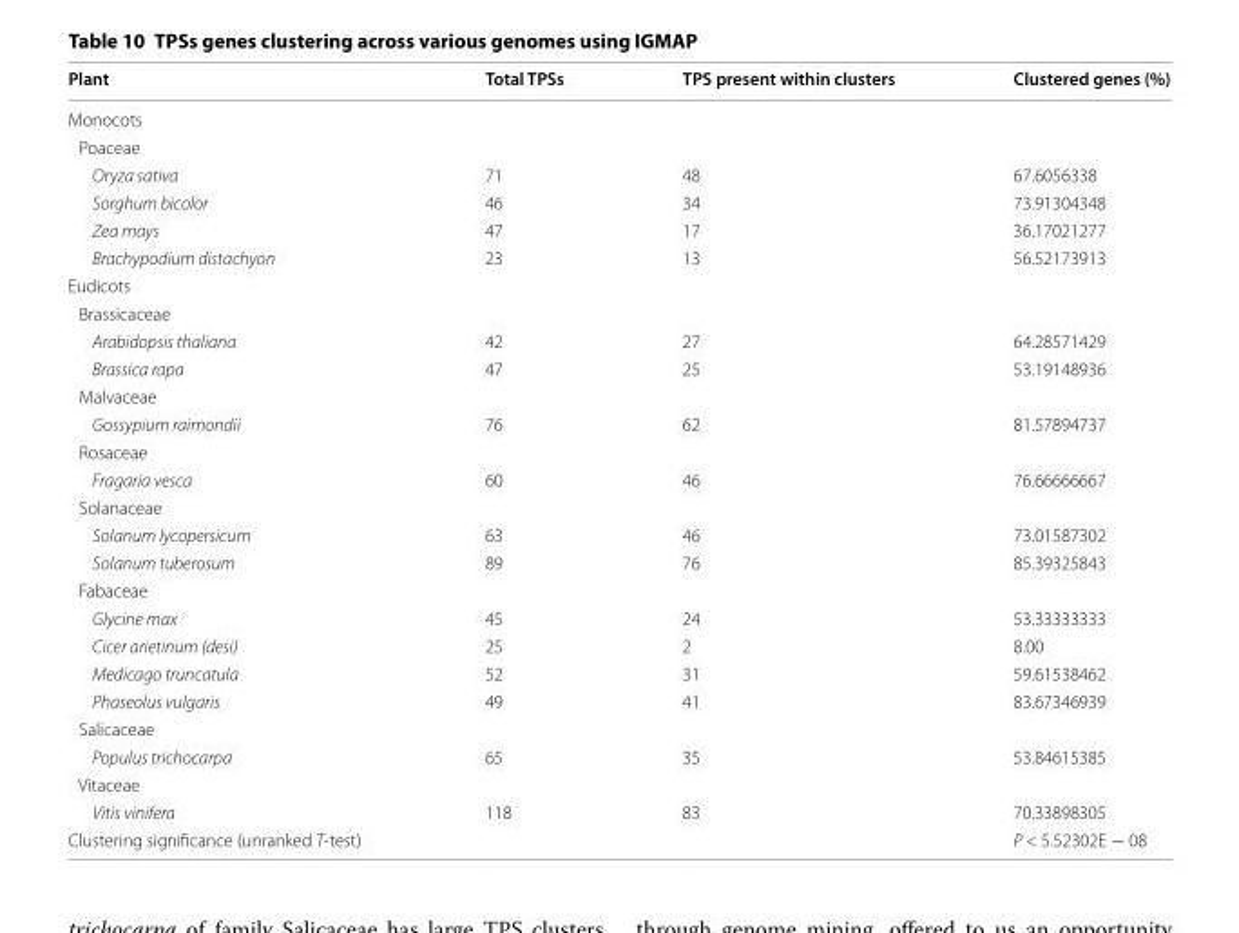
<table><thead><tr><td>Plant</td><td>Total TPSs</td><td>TPS present within clusters</td><td>Clustered genes (%)</td></tr></thead><tbody><tr><td colspan="4">Monocots</td></tr><tr><td colspan="4">Poaceae</td></tr><tr><td>Oryza sativa</td><td>71</td><td>48</td><td>67.6056338</td></tr><tr><td>Sorghum bicolor</td><td>46</td><td>34</td><td>73.91304348</td></tr><tr><td>Zea mays</td><td>47</td><td>17</td><td>36.17021277</td></tr><tr><td>Brachypodium distachyon</td><td>23</td><td>13</td><td>56.52173913</td></tr><tr><td colspan="4">Eudicots</td></tr><tr><td colspan="4">Brassicaceae</td></tr><tr><td>Arabidopsis thaliana</td><td>42</td><td>27</td><td>64.28571429</td></tr><tr><td>Brassica rapa</td><td>47</td><td>25</td><td>53.19148936</td></tr><tr><td colspan="4">Malvaceae</td></tr><tr><td>Gossypium raimondii</td><td>76</td><td>62</td><td>81.57894737</td></tr><tr><td colspan="4">Rosaceae</td></tr><tr><td>Fragaria vesca</td><td>60</td><td>46</td><td>76.66666667</td></tr><tr><td colspan="4">Solanaceae</td></tr><tr><td>Solanum lycopersicum</td><td>63</td><td>46</td><td>73.01587302</td></tr><tr><td>Solanum tuberosum</td><td>89</td><td>76</td><td>85.39325843</td></tr><tr><td colspan="4">Fabaceae</td></tr><tr><td>Glycine max</td><td>45</td><td>24</td><td>53.33333333</td></tr><tr><td>Cicer arietinum (desi)</td><td>25</td><td>2</td><td>8.00</td></tr><tr><td>Medicago truncatula</td><td>52</td><td>31</td><td>59.61538462</td></tr><tr><td>Phaseolus vulgaris</td><td>49</td><td>41</td><td>83.67346939</td></tr><tr><td colspan="4">Salicaceae</td></tr><tr><td>Populus trichocarpa</td><td>65</td><td>35</td><td>53.84615385</td></tr><tr><td colspan="4">Vitaceae</td></tr><tr><td>Vitis vinifera</td><td>118</td><td>83</td><td>70.33898305</td></tr><tr><td colspan="3">Clustering significance (unranked T-test)</td><td>P &lt; 5.52302E − 08</td></tr></tbody></table>